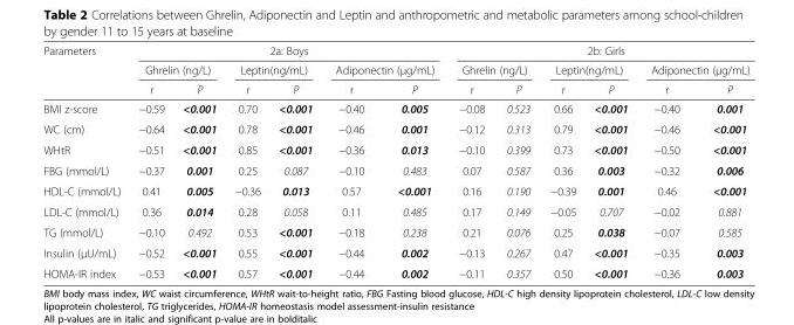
<table><thead><tr><td rowspan="3">Parameters</td><td colspan="6">2a: Boys</td><td colspan="6">2b: Girls</td></tr><tr><td colspan="2">Ghrelin (ng/L)</td><td colspan="2">Leptin(ng/mL)</td><td colspan="2">Adiponectin (μg/mL)</td><td colspan="2">Ghrelin (ng/L)</td><td colspan="2">Leptin(ng/mL)</td><td colspan="2">Adiponectin (μg/mL)</td></tr><tr><td>r</td><td>P</td><td>r</td><td>P</td><td>r</td><td>P</td><td>r</td><td>P</td><td>r</td><td>P</td><td>r</td><td>P</td></tr></thead><tbody><tr><td>BMI z-score</td><td>−0.59</td><td>&lt;0.001</td><td>0.70</td><td>&lt;0.001</td><td>−0.40</td><td>0.005</td><td>−0.08</td><td>0.523</td><td>0.66</td><td>&lt;0.001</td><td>−0.40</td><td>0.001</td></tr><tr><td>WC (cm)</td><td>−0.64</td><td>&lt;0.001</td><td>0.78</td><td>&lt;0.001</td><td>−0.46</td><td>0.001</td><td>−0.12</td><td>0.313</td><td>0.79</td><td>&lt;0.001</td><td>−0.46</td><td>&lt;0.001</td></tr><tr><td>WHtR</td><td>−0.51</td><td>&lt;0.001</td><td>0.85</td><td>&lt;0.001</td><td>−0.36</td><td>0.013</td><td>−0.10</td><td>0.399</td><td>0.73</td><td>&lt;0.001</td><td>−0.50</td><td>&lt;0.001</td></tr><tr><td>FBG (mmol/L)</td><td>−0.37</td><td>0.001</td><td>0.25</td><td>0.087</td><td>−0.10</td><td>0.483</td><td>0.07</td><td>0.587</td><td>0.36</td><td>0.003</td><td>−0.32</td><td>0.006</td></tr><tr><td>HDL-C (mmol/L)</td><td>0.41</td><td>0.005</td><td>−0.36</td><td>0.013</td><td>0.57</td><td>&lt;0.001</td><td>0.16</td><td>0.190</td><td>−0.39</td><td>0.001</td><td>0.46</td><td>&lt;0.001</td></tr><tr><td>LDL-C (mmol/L)</td><td>0.36</td><td>0.014</td><td>0.28</td><td>0.058</td><td>0.11</td><td>0.485</td><td>0.17</td><td>0.149</td><td>−0.05</td><td>0.707</td><td>−0.02</td><td>0.881</td></tr><tr><td>TG (mmol/L)</td><td>−0.10</td><td>0.492</td><td>0.53</td><td>&lt;0.001</td><td>−0.18</td><td>0.238</td><td>0.21</td><td>0.076</td><td>0.25</td><td>0.038</td><td>−0.07</td><td>0.585</td></tr><tr><td>Insulin (μU/mL)</td><td>−0.52</td><td>&lt;0.001</td><td>0.55</td><td>&lt;0.001</td><td>−0.44</td><td>0.002</td><td>−0.13</td><td>0.267</td><td>0.47</td><td>&lt;0.001</td><td>−0.35</td><td>0.003</td></tr><tr><td>HOMA-IR index</td><td>−0.53</td><td>&lt;0.001</td><td>0.57</td><td>&lt;0.001</td><td>−0.44</td><td>0.002</td><td>−0.11</td><td>0.357</td><td>0.50</td><td>&lt;0.001</td><td>−0.36</td><td>0.003</td></tr></tbody></table>